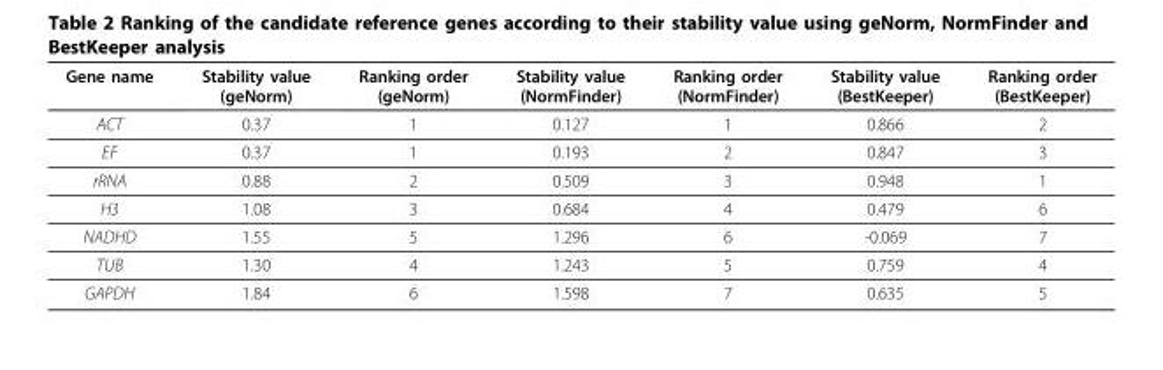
<table><thead><tr><td>Gene name</td><td>Stability value (geNorm)</td><td>Ranking order (geNorm)</td><td>Stability value (NormFinder)</td><td>Ranking order (NormFinder)</td><td>Stability value (BestKeeper)</td><td>Ranking order (BestKeeper)</td></tr></thead><tbody><tr><td>ACT</td><td>0.37</td><td>1</td><td>0.127</td><td>1</td><td>0.866</td><td>2</td></tr><tr><td>EF</td><td>0.37</td><td>1</td><td>0.193</td><td>2</td><td>0.847</td><td>3</td></tr><tr><td>rRNA</td><td>0.88</td><td>2</td><td>0.509</td><td>3</td><td>0.948</td><td>1</td></tr><tr><td>H3</td><td>1.08</td><td>3</td><td>0.684</td><td>4</td><td>0.479</td><td>6</td></tr><tr><td>NADHD</td><td>1.55</td><td>5</td><td>1.296</td><td>6</td><td>-0.069</td><td>7</td></tr><tr><td>TUB</td><td>1.30</td><td>4</td><td>1.243</td><td>5</td><td>0.759</td><td>4</td></tr><tr><td>GAPDH</td><td>1.84</td><td>6</td><td>1.598</td><td>7</td><td>0.635</td><td>5</td></tr></tbody></table>